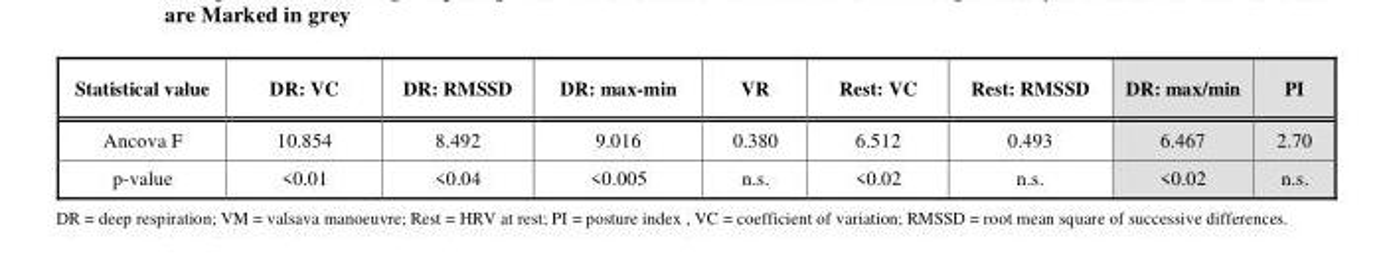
<table><thead><tr><td>Statistical value</td><td>DR: VC</td><td>DR: RMSSD</td><td>DR: max-min</td><td>VR</td><td>Rest: VC</td><td>Rest: RMSSD</td><td>DR: max/min</td><td>PI</td></tr></thead><tbody><tr><td>Ancova F</td><td>10.854</td><td>8.492</td><td>9.016</td><td>0.380</td><td>6.512</td><td>0.493</td><td>6.467</td><td>2.70</td></tr><tr><td>p-value</td><td>&lt;0.01</td><td>&lt;0.04</td><td>&lt;0.005</td><td>n.s.</td><td>&lt;0.02</td><td>n.s.</td><td>&lt;0.02</td><td>n.s.</td></tr></tbody></table>